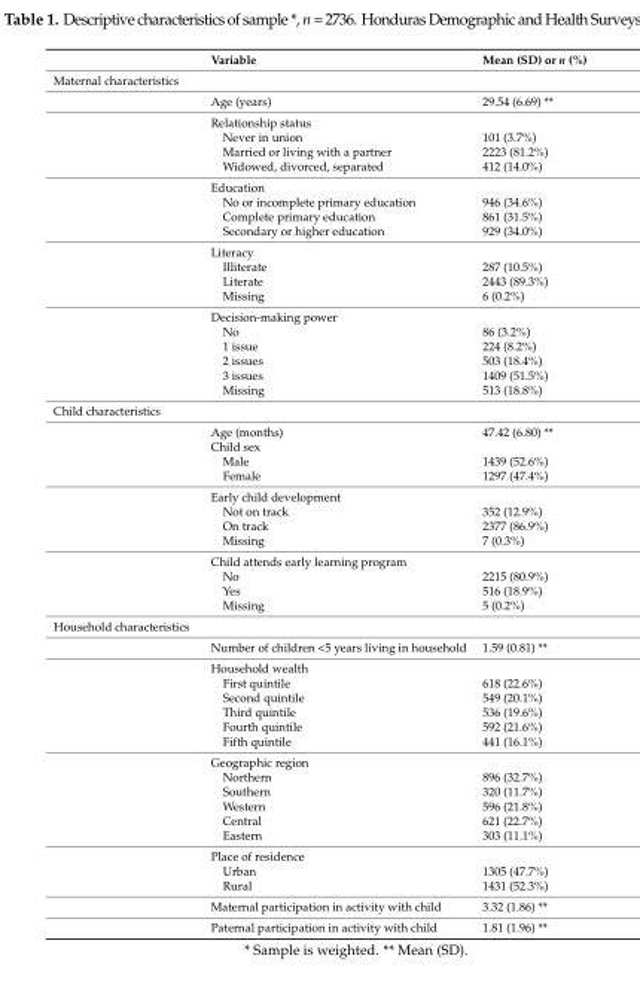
<table><thead><tr><td></td><td>Variable</td><td>Mean (SD) or n (%)</td></tr></thead><tbody><tr><td colspan="3">Maternal characteristics</td></tr><tr><td></td><td>Age (years)</td><td>29.54 (6.69) **</td></tr><tr><td></td><td>Relationship status</td><td></td></tr><tr><td></td><td>Never in union</td><td>101 (3.7%)</td></tr><tr><td></td><td>Married or living with a partner</td><td>2223 (81.2%)</td></tr><tr><td></td><td>Widowed, divorced, separated</td><td>412 (14.0%)</td></tr><tr><td></td><td>Education</td><td></td></tr><tr><td></td><td>No or incomplete primary education</td><td>946 (34.6%)</td></tr><tr><td></td><td>Complete primary education</td><td>861 (31.5%)</td></tr><tr><td></td><td>Secondary or higher education</td><td>929 (34.0%)</td></tr><tr><td></td><td>Literacy</td><td></td></tr><tr><td></td><td>Illiterate</td><td>287 (10.5%)</td></tr><tr><td></td><td>Literate</td><td>2443 (89.3%)</td></tr><tr><td></td><td>Missing</td><td>6 (0.2%)</td></tr><tr><td></td><td>Decision-making power</td><td></td></tr><tr><td></td><td>No</td><td>86 (3.2%)</td></tr><tr><td></td><td>1 issue</td><td>224 (8.2%)</td></tr><tr><td></td><td>2 issues</td><td>503 (18.4%)</td></tr><tr><td></td><td>3 issues</td><td>1409 (51.5%)</td></tr><tr><td></td><td>Missing</td><td>513 (18.8%)</td></tr><tr><td colspan="3">Child characteristics</td></tr><tr><td></td><td>Age (months)</td><td>47.42 (6.80) **</td></tr><tr><td></td><td>Child sex</td><td></td></tr><tr><td></td><td>Male</td><td>1439 (52.6%)</td></tr><tr><td></td><td>Female</td><td>1297 (47.4%)</td></tr><tr><td></td><td>Early child development</td><td></td></tr><tr><td></td><td>Not on track</td><td>352 (12.9%)</td></tr><tr><td></td><td>On track</td><td>2377 (86.9%)</td></tr><tr><td></td><td>Missing</td><td>7 (0.3%)</td></tr><tr><td></td><td>Child attends early learning program</td><td></td></tr><tr><td></td><td>No</td><td>2215 (80.9%)</td></tr><tr><td></td><td>Yes</td><td>516 (18.9%)</td></tr><tr><td></td><td>Missing</td><td>5 (0.2%)</td></tr><tr><td colspan="3">Household characteristics</td></tr><tr><td></td><td>Number of children &lt;5 years living in household</td><td>1.59 (0.81) **</td></tr><tr><td></td><td>Household wealth</td><td></td></tr><tr><td></td><td>First quintile</td><td>618 (22.6%)</td></tr><tr><td></td><td>Second quintile</td><td>549 (20.1%)</td></tr><tr><td></td><td>Third quintile</td><td>536 (19.6%)</td></tr><tr><td></td><td>Fourth quintile</td><td>592 (21.6%)</td></tr><tr><td></td><td>Fifth quintile</td><td>441 (16.1%)</td></tr><tr><td></td><td>Geographic region</td><td></td></tr><tr><td></td><td>Northern</td><td>896 (32.7%)</td></tr><tr><td></td><td>Southern</td><td>320 (11.7%)</td></tr><tr><td></td><td>Western</td><td>596 (21.8%)</td></tr><tr><td></td><td>Central</td><td>621 (22.7%)</td></tr><tr><td></td><td>Eastern</td><td>303 (11.1%)</td></tr><tr><td></td><td>Place of residence</td><td></td></tr><tr><td></td><td>Urban</td><td>1305 (47.7%)</td></tr><tr><td></td><td>Rural</td><td>1431 (52.3%)</td></tr><tr><td></td><td>Maternal participation in activity with child</td><td>3.32 (1.86) **</td></tr><tr><td></td><td>Paternal participation in activity with child</td><td>1.81 (1.96) **</td></tr></tbody></table>